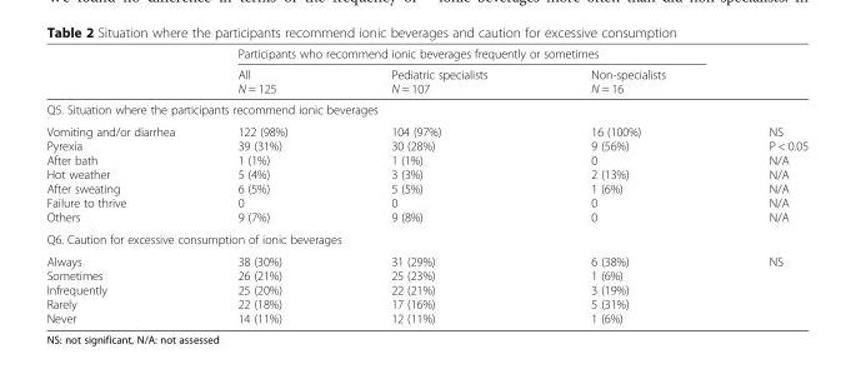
<table><thead><tr><td rowspan="2"></td><td colspan="3">Participants who recommend ionic beverages frequently or sometimes</td><td rowspan="2"></td></tr><tr><td>All N = 125</td><td>Pediatric specialists N = 107</td><td>Non-specialists N = 16</td></tr></thead><tbody><tr><td colspan="5">Q5. Situation where the participants recommend ionic beverages</td></tr><tr><td>Vomiting and/or diarrhea Pyrexia After bath Hot weather After sweating Failure to thrive Others</td><td>122 (98%) 39 (31%) 1 (1%) 5 (4%) 6 (5%) 0 9 (7%)</td><td>104 (97%) 30 (28%) 1 (1%) 3 (3%) 5 (5%) 0 9 (8%)</td><td>16 (100%) 9 (56%) 0 2 (13%) 1 (6%) 0 0</td><td>NS P &lt; 0.05 N/A N/A N/A N/A N/A</td></tr><tr><td colspan="5">Q6. Caution for excessive consumption of ionic beverages</td></tr><tr><td>Always Sometimes Infrequently Rarely Never</td><td>38 (30%) 26 (21%) 25 (20%) 22 (18%) 14 (11%)</td><td>31 (29%) 25 (23%) 22 (21%) 17 (16%) 12 (11%)</td><td>6 (38%) 1 (6%) 3 (19%) 5 (31%) 1 (6%)</td><td>NS</td></tr></tbody></table>